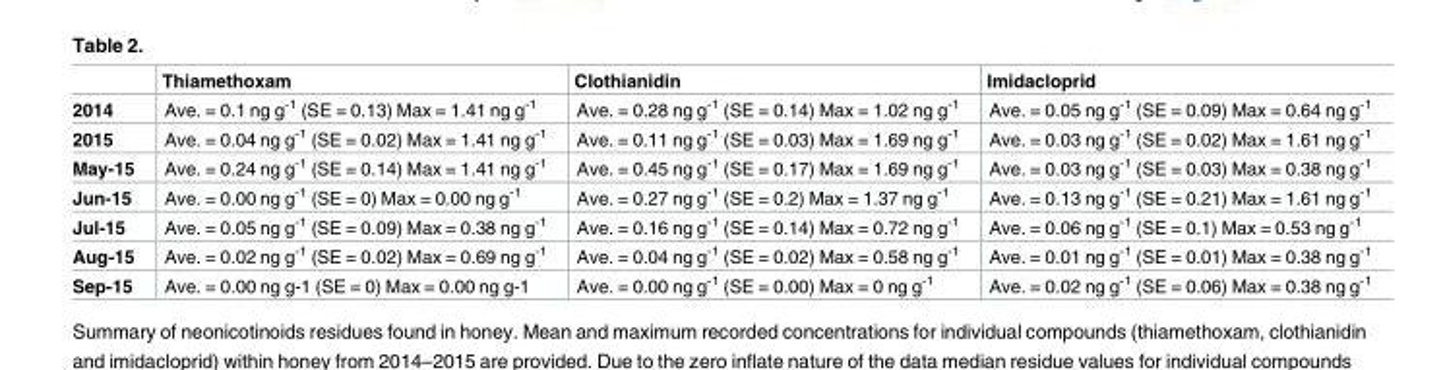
<table><thead><tr><td></td><td>Thiamethoxam</td><td>Clothianidin</td><td>Imidacloprid</td></tr></thead><tbody><tr><td>2014</td><td>Ave. = 0.1 ng g<sup>-1</sup> (SE = 0.13) Max = 1.41 ng g<sup>-1</sup></td><td>Ave. = 0.28 ng g<sup>-1</sup> (SE = 0.14) Max = 1.02 ng g<sup>-1</sup></td><td>Ave. = 0.05 ng g<sup>-1</sup> (SE = 0.09) Max = 0.64 ng g<sup>-1</sup></td></tr><tr><td>2015</td><td>Ave. = 0.04 ng g<sup>-1</sup> (SE = 0.02) Max = 1.41 ng g<sup>-1</sup></td><td>Ave. = 0.11 ng g<sup>-1</sup> (SE = 0.03) Max = 1.69 ng g<sup>-1</sup></td><td>Ave. = 0.03 ng g<sup>-1</sup> (SE = 0.02) Max = 1.61 ng g<sup>-1</sup></td></tr><tr><td>May-15</td><td>Ave. = 0.24 ng g<sup>-1</sup> (SE = 0.14) Max = 1.41 ng g<sup>-1</sup></td><td>Ave. = 0.45 ng g<sup>-1</sup> (SE = 0.17) Max = 1.69 ng g<sup>-1</sup></td><td>Ave. = 0.03 ng g<sup>-1</sup> (SE = 0.03) Max = 0.38 ng g<sup>-1</sup></td></tr><tr><td>Jun-15</td><td>Ave. = 0.00 ng g<sup>-1</sup> (SE = 0) Max = 0.00 ng g<sup>-1</sup></td><td>Ave. = 0.27 ng g<sup>-1</sup> (SE = 0.2) Max = 1.37 ng g<sup>-1</sup></td><td>Ave. = 0.13 ng g<sup>-1</sup> (SE = 0.21) Max = 1.61 ng g<sup>-1</sup></td></tr><tr><td>Jul-15</td><td>Ave. = 0.05 ng g<sup>-1</sup> (SE = 0.09) Max = 0.38 ng g<sup>-1</sup></td><td>Ave. = 0.16 ng g<sup>-1</sup> (SE = 0.14) Max = 0.72 ng g<sup>-1</sup></td><td>Ave. = 0.06 ng g<sup>-1</sup> (SE = 0.1) Max = 0.53 ng g<sup>-1</sup></td></tr><tr><td>Aug-15</td><td>Ave. = 0.02 ng g<sup>-1</sup> (SE = 0.02) Max = 0.69 ng g<sup>-1</sup></td><td>Ave. = 0.04 ng g<sup>-1</sup> (SE = 0.02) Max = 0.58 ng g<sup>-1</sup></td><td>Ave. = 0.01 ng g<sup>-1</sup> (SE = 0.01) Max = 0.38 ng g<sup>-1</sup></td></tr><tr><td>Sep-15</td><td>Ave. = 0.00 ng g-1 (SE = 0) Max = 0.00 ng g-1</td><td>Ave. = 0.00 ng g<sup>-1</sup> (SE = 0.00) Max = 0 ng g<sup>-1</sup></td><td>Ave. = 0.02 ng g<sup>-1</sup> (SE = 0.06) Max = 0.38 ng g<sup>-1</sup></td></tr></tbody></table>